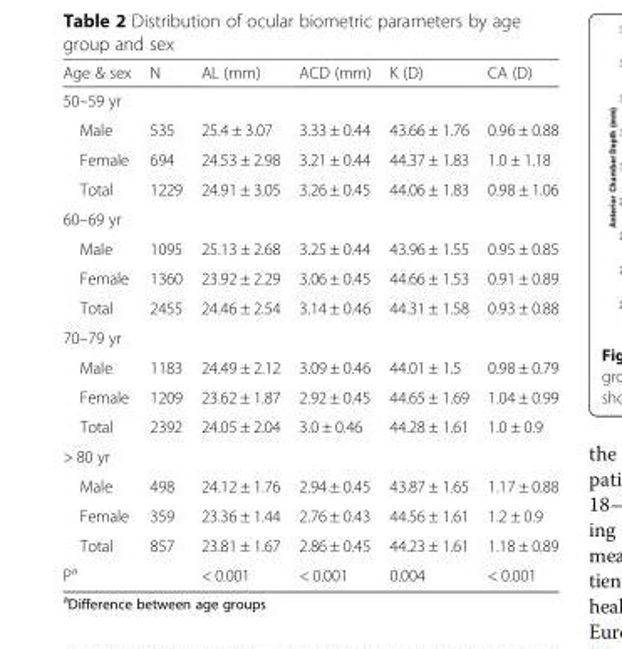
<table><thead><tr><td>Age &amp; sex</td><td>N</td><td>AL (mm)</td><td>ACD (mm)</td><td>K (D)</td><td>CA (D)</td></tr></thead><tbody><tr><td colspan="6">50–59 yr</td></tr><tr><td>Male</td><td>535</td><td>25.4 ± 3.07</td><td>3.33 ± 0.44</td><td>43.66 ± 1.76</td><td>0.96 ± 0.88</td></tr><tr><td>Female</td><td>694</td><td>24.53 ± 2.98</td><td>3.21 ± 0.44</td><td>44.37 ± 1.83</td><td>1.0 ± 1.18</td></tr><tr><td>Total</td><td>1229</td><td>24.91 ± 3.05</td><td>3.26 ± 0.45</td><td>44.06 ± 1.83</td><td>0.98 ± 1.06</td></tr><tr><td colspan="6">60–69 yr</td></tr><tr><td>Male</td><td>1095</td><td>25.13 ± 2.68</td><td>3.25 ± 0.44</td><td>43.96 ± 1.55</td><td>0.95 ± 0.85</td></tr><tr><td>Female</td><td>1360</td><td>23.92 ± 2.29</td><td>3.06 ± 0.45</td><td>44.66 ± 1.53</td><td>0.91 ± 0.89</td></tr><tr><td>Total</td><td>2455</td><td>24.46 ± 2.54</td><td>3.14 ± 0.46</td><td>44.31 ± 1.58</td><td>0.93 ± 0.88</td></tr><tr><td colspan="6">70–79 yr</td></tr><tr><td>Male</td><td>1183</td><td>24.49 ± 2.12</td><td>3.09 ± 0.46</td><td>44.01 ± 1.5</td><td>0.98 ± 0.79</td></tr><tr><td>Female</td><td>1209</td><td>23.62 ± 1.87</td><td>2.92 ± 0.45</td><td>44.65 ± 1.69</td><td>1.04 ± 0.99</td></tr><tr><td>Total</td><td>2392</td><td>24.05 ± 2.04</td><td>3.0 ± 0.46</td><td>44.28 ± 1.61</td><td>1.0 ± 0.9</td></tr><tr><td colspan="6">&gt; 80 yr</td></tr><tr><td>Male</td><td>498</td><td>24.12 ± 1.76</td><td>2.94 ± 0.45</td><td>43.87 ± 1.65</td><td>1.17 ± 0.88</td></tr><tr><td>Female</td><td>359</td><td>23.36 ± 1.44</td><td>2.76 ± 0.43</td><td>44.56 ± 1.61</td><td>1.2 ± 0.9</td></tr><tr><td>Total</td><td>857</td><td>23.81 ± 1.67</td><td>2.86 ± 0.45</td><td>44.23 ± 1.61</td><td>1.18 ± 0.89</td></tr><tr><td>P<sup>a</sup></td><td></td><td>&lt; 0.001</td><td>&lt; 0.001</td><td>0.004</td><td>&lt; 0.001</td></tr></tbody></table>